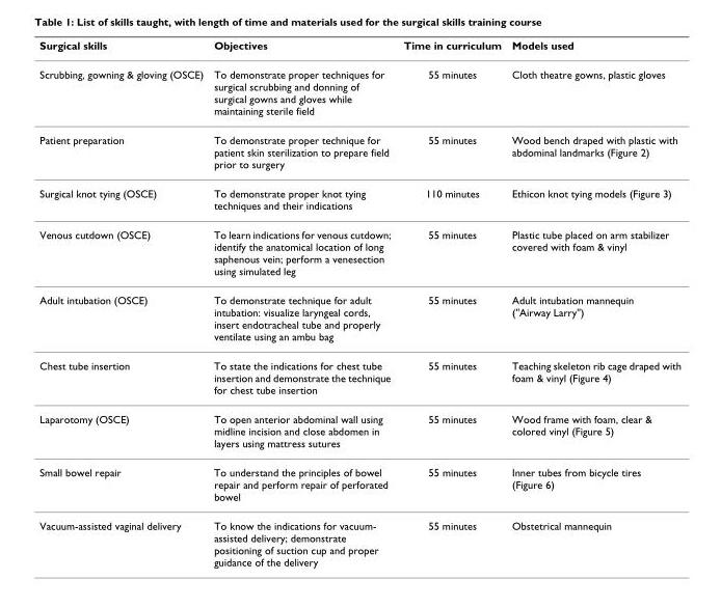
<table><thead><tr><td>Surgical skills</td><td>Objectives</td><td>Time in curriculum</td><td>Models used</td></tr></thead><tbody><tr><td>Scrubbing, gowning &amp; gloving (OSCE)</td><td>To demonstrate proper techniques for surgical scrubbing and donning of surgical gowns and gloves while maintaining sterile field</td><td>55 minutes</td><td>Cloth theatre gowns, plastic gloves</td></tr><tr><td>Patient preparation</td><td>To demonstrate proper technique for patient skin sterilization to prepare field prior to surgery</td><td>55 minutes</td><td>Wood bench draped with plastic with abdominal landmarks (Figure 2)</td></tr><tr><td>Surgical knot tying (OSCE)</td><td>To demonstrate proper knot tying techniques and their indications</td><td>110 minutes</td><td>Ethicon knot tying models (Figure 3)</td></tr><tr><td>Venous cutdown (OSCE)</td><td>To learn indications for venous cutdown; identify the anatomical location of long saphenous vein; perform a venesection using simulated leg</td><td>55 minutes</td><td>Plastic tube placed on arm stabilizer covered with foam &amp; vinyl</td></tr><tr><td>Adult intubation (OSCE)</td><td>To demonstrate technique for adult intubation: visualize laryngeal cords, insert endotracheal tube and properly ventilate using an ambu bag</td><td>55 minutes</td><td>Adult intubation mannequin (&quot;Airway Larry&quot;)</td></tr><tr><td>Chest tube insertion</td><td>To state the indications for chest tube insertion and demonstrate the technique for chest tube insertion</td><td>55 minutes</td><td>Teaching skeleton rib cage draped with foam &amp; vinyl (Figure 4)</td></tr><tr><td>Laparotomy (OSCE)</td><td>To open anterior abdominal wall using midline incision and close abdomen in layers using mattress sutures</td><td>55 minutes</td><td>Wood frame with foam, clear &amp; colored vinyl (Figure 5)</td></tr><tr><td>Small bowel repair</td><td>To understand the principles of bowel repair and perform repair of perforated bowel</td><td>55 minutes</td><td>Inner tubes from bicycle tires (Figure 6)</td></tr><tr><td>Vacuum-assisted vaginal delivery</td><td>To know the indications for vacuum- assisted delivery; demonstrate positioning of suction cup and proper guidance of the delivery</td><td>55 minutes</td><td>Obstetrical mannequin</td></tr></tbody></table>